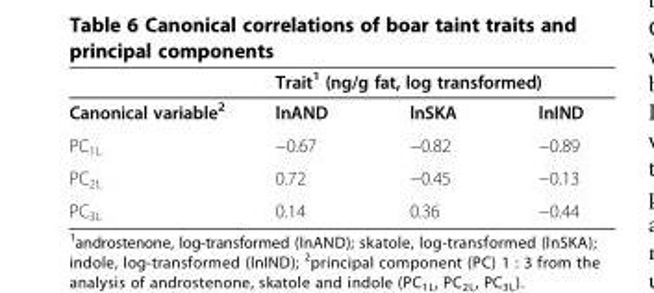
<table><thead><tr><td rowspan="2">Canonical variable<sup>2</sup></td><td colspan="3">Trait<sup>1</sup> (ng/g fat, log transformed)</td></tr><tr><td>lnAND</td><td>lnSKA</td><td>lnIND</td></tr></thead><tbody><tr><td>PC<sub>1L</sub></td><td>−0.67</td><td>−0.82</td><td>−0.89</td></tr><tr><td>PC<sub>2L</sub></td><td>0.72</td><td>−0.45</td><td>−0.13</td></tr><tr><td>PC<sub>3L</sub></td><td>0.14</td><td>0.36</td><td>−0.44</td></tr></tbody></table>